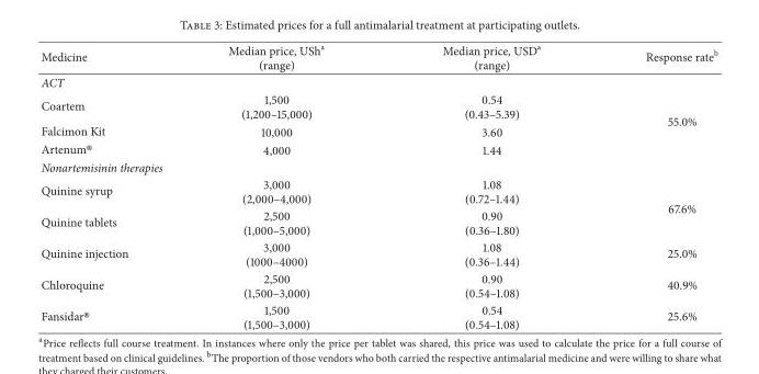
<table><thead><tr><td>Medicine</td><td>Median price, USh<sup>a</sup> (range)</td><td>Median price, USD<sup>a</sup> (range)</td><td>Response rate<sup>b</sup></td></tr></thead><tbody><tr><td colspan="4">ACT</td></tr><tr><td>Coartem</td><td>1,500 (1,200–15,000)</td><td>0.54 (0.43–5.39)</td><td rowspan="3">55.0%</td></tr><tr><td>Falcimon Kit</td><td>10,000</td><td>3.60</td></tr><tr><td>Artenum®</td><td>4,000</td><td>1.44</td></tr><tr><td colspan="4">Nonartemisinin therapies</td></tr><tr><td>Quinine syrup</td><td>3,000 (2,000–4,000)</td><td>1.08 (0.72–1.44)</td><td rowspan="2">67.6%</td></tr><tr><td>Quinine tablets</td><td>2,500 (1,000–5,000)</td><td>0.90 (0.36–1.80)</td></tr><tr><td>Quinine injection</td><td>3,000 (1000–4000)</td><td>1.08 (0.36–1.44)</td><td>25.0%</td></tr><tr><td>Chloroquine</td><td>2,500 (1,500–3,000)</td><td>0.90 (0.54–1.08)</td><td>40.9%</td></tr><tr><td>Fansidar®</td><td>1,500 (1,500–3,000)</td><td>0.54 (0.54–1.08)</td><td>25.6%</td></tr></tbody></table>